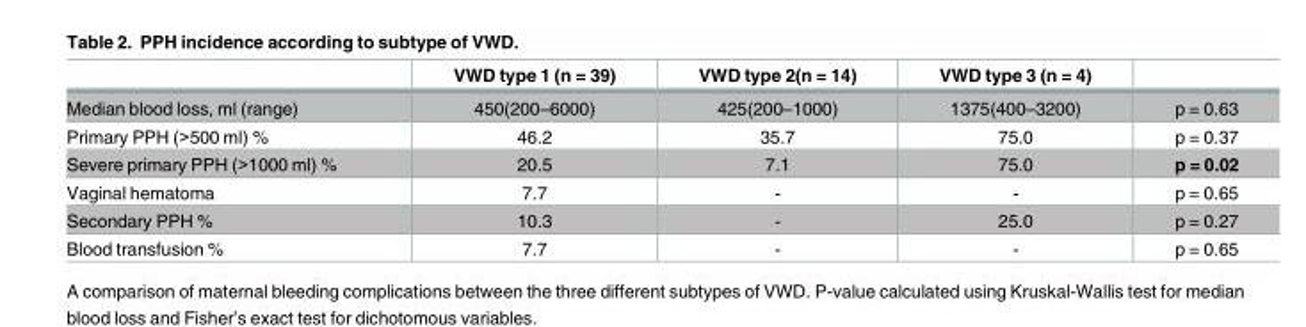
<table><thead><tr><td></td><td>VWD type 1 (n = 39)</td><td>VWD type 2(n = 14)</td><td>VWD type 3 (n = 4)</td><td></td></tr></thead><tbody><tr><td>Median blood loss, ml (range)</td><td>450(200–6000)</td><td>425(200–1000)</td><td>1375(400–3200)</td><td>p = 0.63</td></tr><tr><td>Primary PPH (&gt;500 ml) %</td><td>46.2</td><td>35.7</td><td>75.0</td><td>p = 0.37</td></tr><tr><td>Severe primary PPH (&gt;1000 ml) %</td><td>20.5</td><td>7.1</td><td>75.0</td><td>p = 0.02</td></tr><tr><td>Vaginal hematoma</td><td>7.7</td><td>-</td><td>-</td><td>p = 0.65</td></tr><tr><td>Secondary PPH %</td><td>10.3</td><td>-</td><td>25.0</td><td>p = 0.27</td></tr><tr><td>Blood transfusion %</td><td>7.7</td><td>-</td><td>-</td><td>p = 0.65</td></tr></tbody></table>